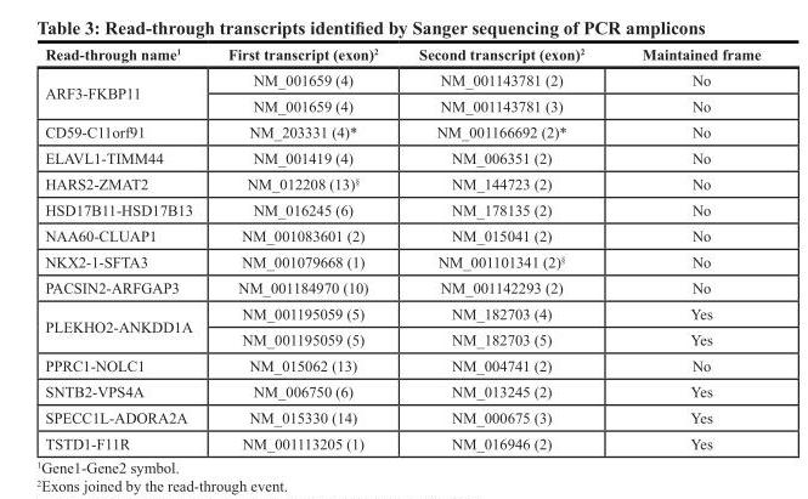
<table><thead><tr><td>Read‑through name<sup>1</sup></td><td>First transcript (exon)<sup>2</sup></td><td>Second transcript (exon)<sup>2</sup></td><td>Maintained frame</td></tr></thead><tbody><tr><td rowspan="2">ARF3‑FKBP11</td><td>NM_001659 (4)</td><td>NM_001143781 (2)</td><td>No</td></tr><tr><td>NM_001659 (4)</td><td>NM_001143781 (3)</td><td>No</td></tr><tr><td>CD59‑C11orf91</td><td>NM_203331 (4)*</td><td>NM_001166692 (2)*</td><td>No</td></tr><tr><td>ELAVL1‑TIMM44</td><td>NM_001419 (4)</td><td>NM_006351 (2)</td><td>No</td></tr><tr><td>HARS2‑ZMAT2</td><td>NM_012208 (13)<sup>§</sup></td><td>NM_144723 (2)</td><td>No</td></tr><tr><td>HSD17B11‑HSD17B13</td><td>NM_016245 (6)</td><td>NM_178135 (2)</td><td>No</td></tr><tr><td>NAA60‑CLUAP1</td><td>NM_001083601 (2)</td><td>NM_015041 (2)</td><td>No</td></tr><tr><td>NKX2‑1‑SFTA3</td><td>NM_001079668 (1)</td><td>NM_001101341 (2)<sup>§</sup></td><td>No</td></tr><tr><td>PACSIN2‑ARFGAP3</td><td>NM_001184970 (10)</td><td>NM_001142293 (2)</td><td>No</td></tr><tr><td rowspan="2">PLEKHO2‑ANKDD1A</td><td>NM_001195059 (5)</td><td>NM_182703 (4)</td><td>Yes</td></tr><tr><td>NM_001195059 (5)</td><td>NM_182703 (5)</td><td>Yes</td></tr><tr><td>PPRC1‑NOLC1</td><td>NM_015062 (13)</td><td>NM_004741 (2)</td><td>No</td></tr><tr><td>SNTB2‑VPS4A</td><td>NM_006750 (6)</td><td>NM_013245 (2)</td><td>Yes</td></tr><tr><td>SPECC1L‑ADORA2A</td><td>NM_015330 (14)</td><td>NM_000675 (3)</td><td>Yes</td></tr><tr><td>TSTD1‑F11R</td><td>NM_001113205 (1)</td><td>NM_016946 (2)</td><td>Yes</td></tr></tbody></table>